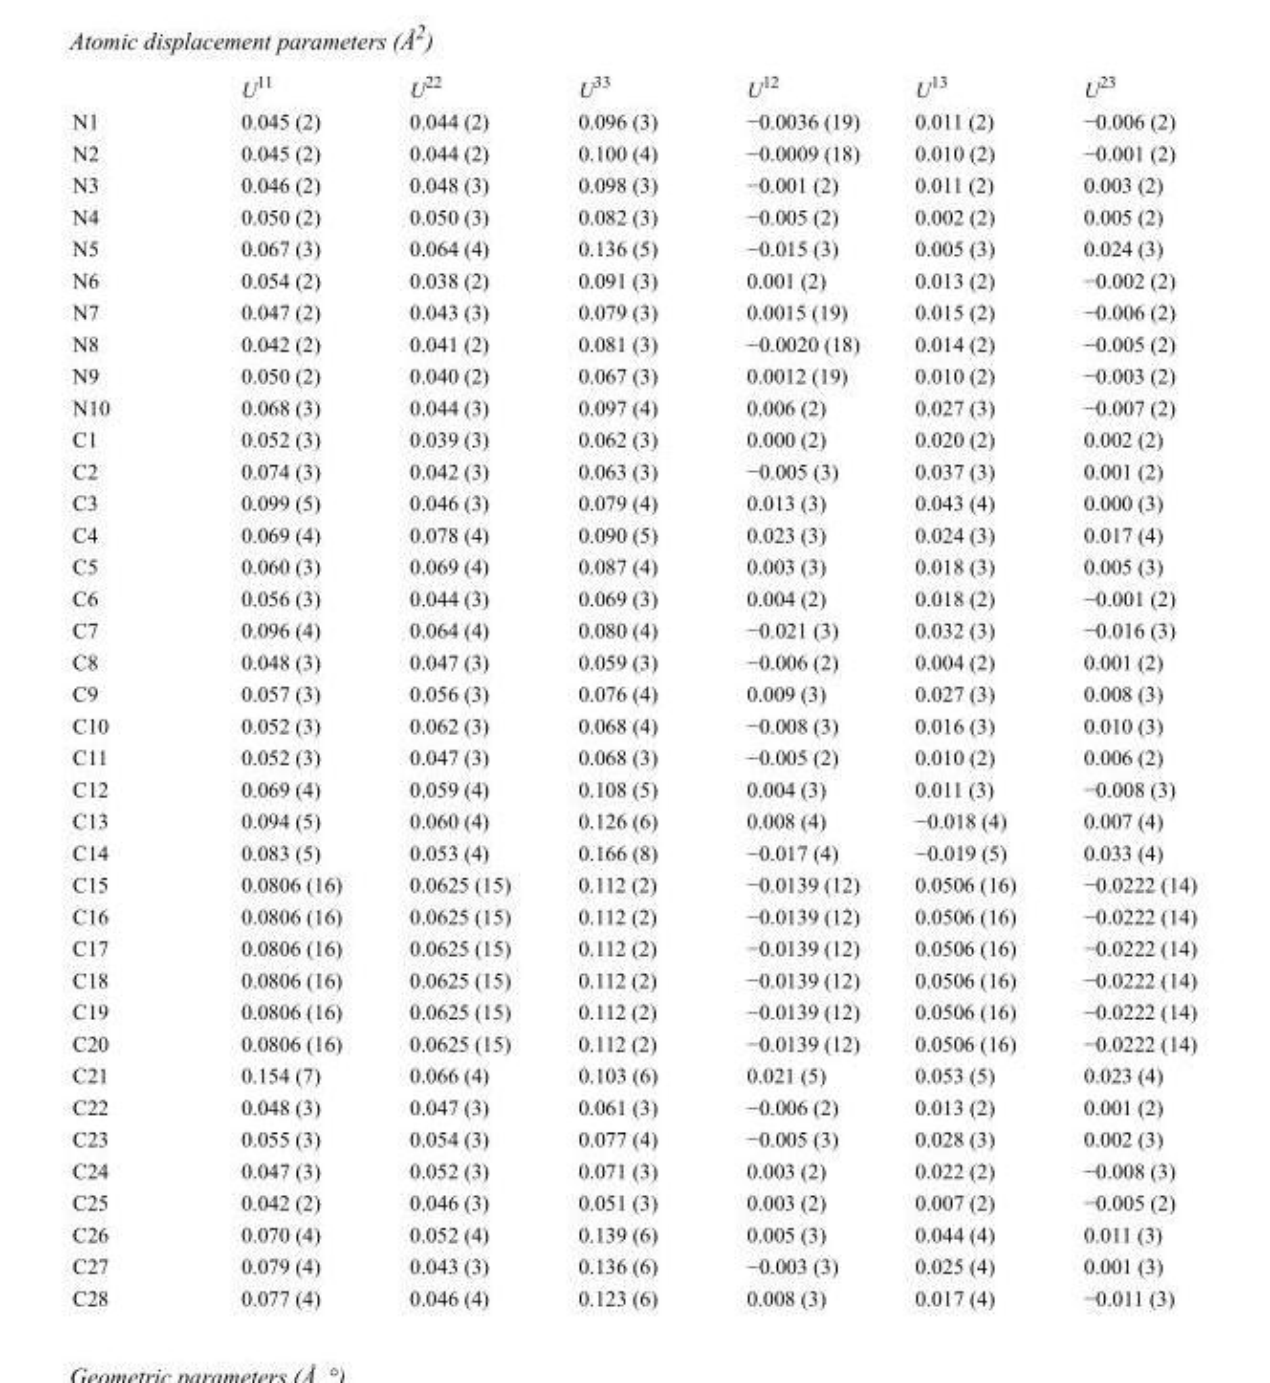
<table><thead><tr><td></td><td>U<sup>11</sup></td><td>U<sup>22</sup></td><td>U<sup>33</sup></td><td>U<sup>12</sup></td><td>U<sup>13</sup></td><td>U<sup>23</sup></td></tr></thead><tbody><tr><td>N1</td><td>0.045 (2)</td><td>0.044 (2)</td><td>0.096 (3)</td><td>−0.0036 (19)</td><td>0.011 (2)</td><td>−0.006 (2)</td></tr><tr><td>N2</td><td>0.045 (2)</td><td>0.044 (2)</td><td>0.100 (4)</td><td>−0.0009 (18)</td><td>0.010 (2)</td><td>−0.001 (2)</td></tr><tr><td>N3</td><td>0.046 (2)</td><td>0.048 (3)</td><td>0.098 (3)</td><td>−0.001 (2)</td><td>0.011 (2)</td><td>0.003 (2)</td></tr><tr><td>N4</td><td>0.050 (2)</td><td>0.050 (3)</td><td>0.082 (3)</td><td>−0.005 (2)</td><td>0.002 (2)</td><td>0.005 (2)</td></tr><tr><td>N5</td><td>0.067 (3)</td><td>0.064 (4)</td><td>0.136 (5)</td><td>−0.015 (3)</td><td>0.005 (3)</td><td>0.024 (3)</td></tr><tr><td>N6</td><td>0.054 (2)</td><td>0.038 (2)</td><td>0.091 (3)</td><td>0.001 (2)</td><td>0.013 (2)</td><td>−0.002 (2)</td></tr><tr><td>N7</td><td>0.047 (2)</td><td>0.043 (3)</td><td>0.079 (3)</td><td>0.0015 (19)</td><td>0.015 (2)</td><td>−0.006 (2)</td></tr><tr><td>N8</td><td>0.042 (2)</td><td>0.041 (2)</td><td>0.081 (3)</td><td>−0.0020 (18)</td><td>0.014 (2)</td><td>−0.005 (2)</td></tr><tr><td>N9</td><td>0.050 (2)</td><td>0.040 (2)</td><td>0.067 (3)</td><td>0.0012 (19)</td><td>0.010 (2)</td><td>−0.003 (2)</td></tr><tr><td>N10</td><td>0.068 (3)</td><td>0.044 (3)</td><td>0.097 (4)</td><td>0.006 (2)</td><td>0.027 (3)</td><td>−0.007 (2)</td></tr><tr><td>C1</td><td>0.052 (3)</td><td>0.039 (3)</td><td>0.062 (3)</td><td>0.000 (2)</td><td>0.020 (2)</td><td>0.002 (2)</td></tr><tr><td>C2</td><td>0.074 (3)</td><td>0.042 (3)</td><td>0.063 (3)</td><td>−0.005 (3)</td><td>0.037 (3)</td><td>0.001 (2)</td></tr><tr><td>C3</td><td>0.099 (5)</td><td>0.046 (3)</td><td>0.079 (4)</td><td>0.013 (3)</td><td>0.043 (4)</td><td>0.000 (3)</td></tr><tr><td>C4</td><td>0.069 (4)</td><td>0.078 (4)</td><td>0.090 (5)</td><td>0.023 (3)</td><td>0.024 (3)</td><td>0.017 (4)</td></tr><tr><td>C5</td><td>0.060 (3)</td><td>0.069 (4)</td><td>0.087 (4)</td><td>0.003 (3)</td><td>0.018 (3)</td><td>0.005 (3)</td></tr><tr><td>C6</td><td>0.056 (3)</td><td>0.044 (3)</td><td>0.069 (3)</td><td>0.004 (2)</td><td>0.018 (2)</td><td>−0.001 (2)</td></tr><tr><td>C7</td><td>0.096 (4)</td><td>0.064 (4)</td><td>0.080 (4)</td><td>−0.021 (3)</td><td>0.032 (3)</td><td>−0.016 (3)</td></tr><tr><td>C8</td><td>0.048 (3)</td><td>0.047 (3)</td><td>0.059 (3)</td><td>−0.006 (2)</td><td>0.004 (2)</td><td>0.001 (2)</td></tr><tr><td>C9</td><td>0.057 (3)</td><td>0.056 (3)</td><td>0.076 (4)</td><td>0.009 (3)</td><td>0.027 (3)</td><td>0.008 (3)</td></tr><tr><td>C10</td><td>0.052 (3)</td><td>0.062 (3)</td><td>0.068 (4)</td><td>−0.008 (3)</td><td>0.016 (3)</td><td>0.010 (3)</td></tr><tr><td>C11</td><td>0.052 (3)</td><td>0.047 (3)</td><td>0.068 (3)</td><td>−0.005 (2)</td><td>0.010 (2)</td><td>0.006 (2)</td></tr><tr><td>C12</td><td>0.069 (4)</td><td>0.059 (4)</td><td>0.108 (5)</td><td>0.004 (3)</td><td>0.011 (3)</td><td>−0.008 (3)</td></tr><tr><td>C13</td><td>0.094 (5)</td><td>0.060 (4)</td><td>0.126 (6)</td><td>0.008 (4)</td><td>−0.018 (4)</td><td>0.007 (4)</td></tr><tr><td>C14</td><td>0.083 (5)</td><td>0.053 (4)</td><td>0.166 (8)</td><td>−0.017 (4)</td><td>−0.019 (5)</td><td>0.033 (4)</td></tr><tr><td>C15</td><td>0.0806 (16)</td><td>0.0625 (15)</td><td>0.112 (2)</td><td>−0.0139 (12)</td><td>0.0506 (16)</td><td>−0.0222 (14)</td></tr><tr><td>C16</td><td>0.0806 (16)</td><td>0.0625 (15)</td><td>0.112 (2)</td><td>−0.0139 (12)</td><td>0.0506 (16)</td><td>−0.0222 (14)</td></tr><tr><td>C17</td><td>0.0806 (16)</td><td>0.0625 (15)</td><td>0.112 (2)</td><td>−0.0139 (12)</td><td>0.0506 (16)</td><td>−0.0222 (14)</td></tr><tr><td>C18</td><td>0.0806 (16)</td><td>0.0625 (15)</td><td>0.112 (2)</td><td>−0.0139 (12)</td><td>0.0506 (16)</td><td>−0.0222 (14)</td></tr><tr><td>C19</td><td>0.0806 (16)</td><td>0.0625 (15)</td><td>0.112 (2)</td><td>−0.0139 (12)</td><td>0.0506 (16)</td><td>−0.0222 (14)</td></tr><tr><td>C20</td><td>0.0806 (16)</td><td>0.0625 (15)</td><td>0.112 (2)</td><td>−0.0139 (12)</td><td>0.0506 (16)</td><td>−0.0222 (14)</td></tr><tr><td>C21</td><td>0.154 (7)</td><td>0.066 (4)</td><td>0.103 (6)</td><td>0.021 (5)</td><td>0.053 (5)</td><td>0.023 (4)</td></tr><tr><td>C22</td><td>0.048 (3)</td><td>0.047 (3)</td><td>0.061 (3)</td><td>−0.006 (2)</td><td>0.013 (2)</td><td>0.001 (2)</td></tr><tr><td>C23</td><td>0.055 (3)</td><td>0.054 (3)</td><td>0.077 (4)</td><td>−0.005 (3)</td><td>0.028 (3)</td><td>0.002 (3)</td></tr><tr><td>C24</td><td>0.047 (3)</td><td>0.052 (3)</td><td>0.071 (3)</td><td>0.003 (2)</td><td>0.022 (2)</td><td>−0.008 (3)</td></tr><tr><td>C25</td><td>0.042 (2)</td><td>0.046 (3)</td><td>0.051 (3)</td><td>0.003 (2)</td><td>0.007 (2)</td><td>−0.005 (2)</td></tr><tr><td>C26</td><td>0.070 (4)</td><td>0.052 (4)</td><td>0.139 (6)</td><td>0.005 (3)</td><td>0.044 (4)</td><td>0.011 (3)</td></tr><tr><td>C27</td><td>0.079 (4)</td><td>0.043 (3)</td><td>0.136 (6)</td><td>−0.003 (3)</td><td>0.025 (4)</td><td>0.001 (3)</td></tr><tr><td>C28</td><td>0.077 (4)</td><td>0.046 (4)</td><td>0.123 (6)</td><td>0.008 (3)</td><td>0.017 (4)</td><td>−0.011 (3)</td></tr></tbody></table>